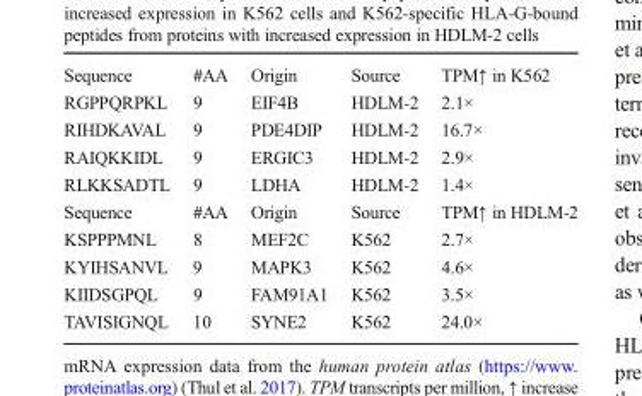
<table><tbody><tr><td>Sequence</td><td>#AA</td><td>Origin</td><td>Source</td><td>TPM↑ in K562</td></tr><tr><td>RGPPQRPKL</td><td>9</td><td>EIF4B</td><td>HDLM-2</td><td>2.1×</td></tr><tr><td>RIHDKAVAL</td><td>9</td><td>PDE4DIP</td><td>HDLM-2</td><td>16.7×</td></tr><tr><td>RAIQKKIDL</td><td>9</td><td>ERGIC3</td><td>HDLM-2</td><td>2.9×</td></tr><tr><td>RLKKSADTL</td><td>9</td><td>LDHA</td><td>HDLM-2</td><td>1.4×</td></tr><tr><td>Sequence</td><td>#AA</td><td>Origin</td><td>Source</td><td>TPM↑ in HDLM-2</td></tr><tr><td>KSPPPMNL</td><td>8</td><td>MEF2C</td><td>K562</td><td>2.7×</td></tr><tr><td>KYIHSANVL</td><td>9</td><td>MAPK3</td><td>K562</td><td>4.6×</td></tr><tr><td>KIIDSGPQL</td><td>9</td><td>FAM91A1</td><td>K562</td><td>3.5×</td></tr><tr><td>TAVISIGNQL</td><td>10</td><td>SYNE2</td><td>K562</td><td>24.0×</td></tr></tbody></table>